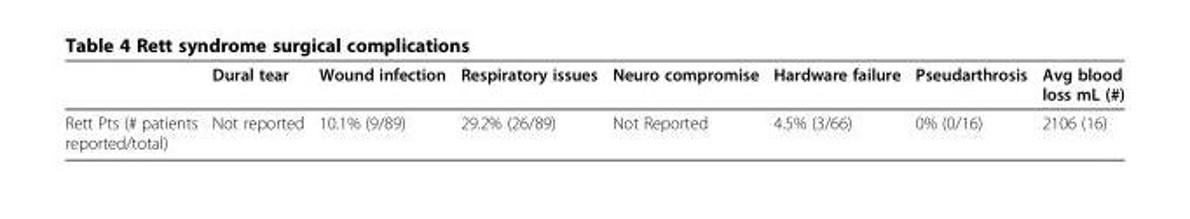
<table><thead><tr><td></td><td>Dural tear</td><td>Wound infection</td><td>Respiratory issues</td><td>Neuro compromise</td><td>Hardware failure</td><td>Pseudarthrosis</td><td>Avg blood loss mL (#)</td></tr></thead><tbody><tr><td>Rett Pts (# patients reported/total)</td><td>Not reported</td><td>10.1% (9/89)</td><td>29.2% (26/89)</td><td>Not Reported</td><td>4.5% (3/66)</td><td>0% (0/16)</td><td>2106 (16)</td></tr></tbody></table>